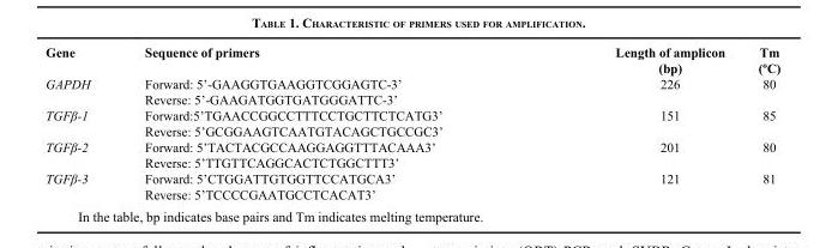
<table><thead><tr><td>Gene</td><td>Sequence of primers</td><td>Length of amplicon (bp)</td><td>Tm (ºC)</td></tr></thead><tbody><tr><td rowspan="2">GAPDH</td><td>Forward: 5’-GAAGGTGAAGGTCGGAGTC-3’</td><td>226</td><td>80</td></tr><tr><td>Reverse: 5’-GAAGATGGTGATGGGATTC-3’</td><td></td><td></td></tr><tr><td rowspan="2">TGFβ-1</td><td>Forward:5’TGAACCGGCCTTTCCTGCTTCTCATG3’</td><td>151</td><td>85</td></tr><tr><td>Reverse: 5’GCGGAAGTCAATGTACAGCTGCCGC3’</td><td></td><td></td></tr><tr><td rowspan="2">TGFβ-2</td><td>Forward: 5’TACTACGCCAAGGAGGTTTACAAA3’</td><td>201</td><td>80</td></tr><tr><td>Reverse: 5’TTGTTCAGGCACTCTGGCTTT3’</td><td></td><td></td></tr><tr><td rowspan="2">TGFβ-3</td><td>Forward: 5’CTGGATTGTGGTTCCATGCA3’</td><td>121</td><td>81</td></tr><tr><td>Reverse: 5’TCCCCGAATGCCTCACAT3’</td><td></td><td></td></tr></tbody></table>